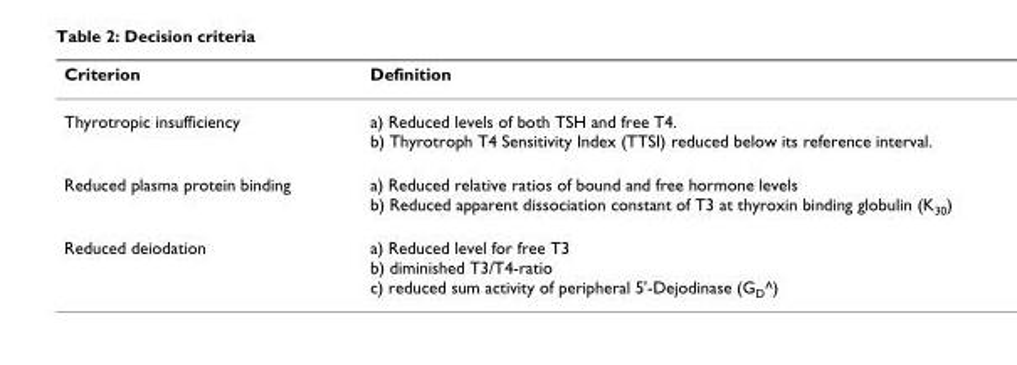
<table><thead><tr><td>Criterion</td><td>Definition</td></tr></thead><tbody><tr><td>Thyrotropic insufficiency</td><td>a) Reduced levels of both TSH and free T4. b) Thyrotroph T4 Sensitivity Index (TTSI) reduced below its reference interval.</td></tr><tr><td>Reduced plasma protein binding</td><td>a) Reduced relative ratios of bound and free hormone levels b) Reduced apparent dissociation constant of T3 at thyroxin binding globulin (K<sub>30</sub>)</td></tr><tr><td>Reduced deiodation</td><td>a) Reduced level for free T3 b) diminished T3/T4-ratio c) reduced sum activity of peripheral 5&#x27;-Dejodinase (G<sub>D</sub>^)</td></tr></tbody></table>